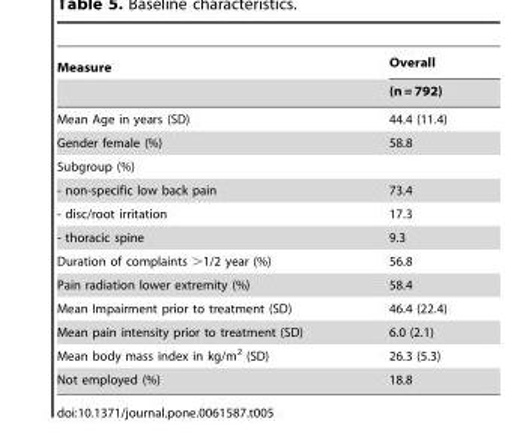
<table><thead><tr><td rowspan="2">Measure</td><td rowspan="2">Overall (n = 792)</td></tr><tr></tr></thead><tbody><tr><td>Mean Age in years (SD)</td><td>44.4 (11.4)</td></tr><tr><td>Gender female (%)</td><td>58.8</td></tr><tr><td colspan="2">Subgroup (%)</td></tr><tr><td>- non-specific low back pain</td><td>73.4</td></tr><tr><td>- disc/root irritation</td><td>17.3</td></tr><tr><td>- thoracic spine</td><td>9.3</td></tr><tr><td>Duration of complaints &gt;1/2 year (%)</td><td>56.8</td></tr><tr><td>Pain radiation lower extremity (%)</td><td>58.4</td></tr><tr><td>Mean Impairment prior to treatment (SD)</td><td>46.4 (22.4)</td></tr><tr><td>Mean pain intensity prior to treatment (SD)</td><td>6.0 (2.1)</td></tr><tr><td>Mean body mass index in kg/m<sup>2</sup> (SD)</td><td>26.3 (5.3)</td></tr><tr><td>Not employed (%)</td><td>18.8</td></tr></tbody></table>